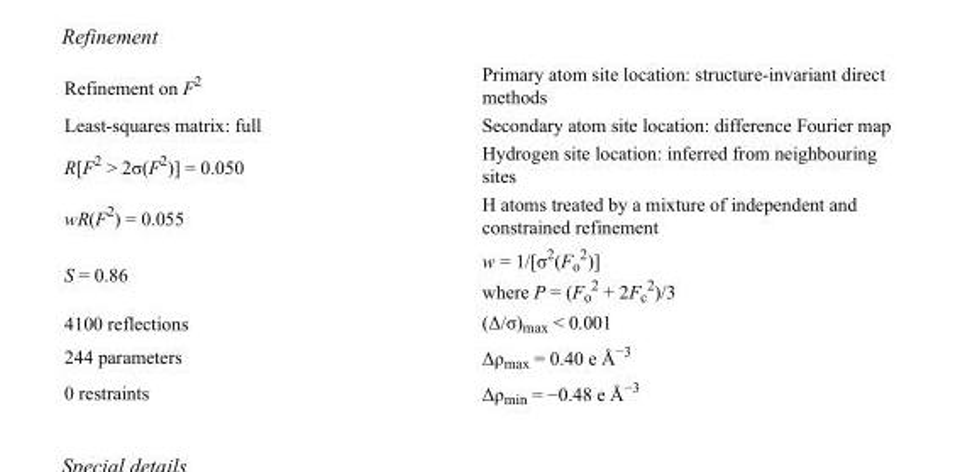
<table><tbody><tr><td>Refinement on F<sup>2</sup></td><td>Primary atom site location: structure-invariant direct methods</td></tr><tr><td>Least-squares matrix: full</td><td>Secondary atom site location: difference Fourier map</td></tr><tr><td>R[F<sup>2</sup> &gt; 2σ(F<sup>2</sup>)] = 0.050</td><td>Hydrogen site location: inferred from neighbouring sites</td></tr><tr><td>wR(F<sup>2</sup>) = 0.055</td><td>H atoms treated by a mixture of independent and constrained refinement</td></tr><tr><td>S = 0.86</td><td>w = 1/[σ<sup>2</sup>(F<sub>o</sub> <sup>2</sup>)] where P = (F<sub>o</sub> <sup>2</sup> + 2F<sub>c</sub> <sup>2</sup>)/3</td></tr><tr><td>4100 reflections</td><td>(Δ/σ)<sub>max</sub> &lt; 0.001</td></tr><tr><td>244 parameters</td><td>Δρ<sub>max</sub> = 0.40 e Å<sup>−3</sup></td></tr><tr><td>0 restraints</td><td>Δρ<sub>min</sub> = −0.48 e Å<sup>−3</sup></td></tr></tbody></table>